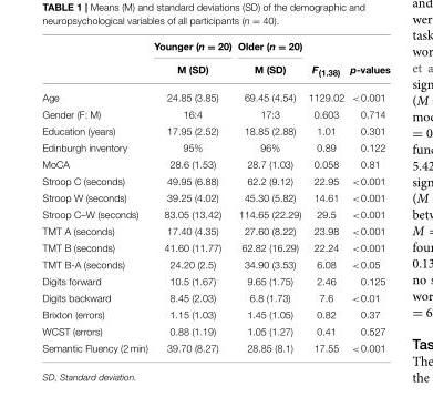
<table><thead><tr><td rowspan="2"></td><td rowspan="2">Younger (n = 20) M (SD)</td><td rowspan="2">Older (n = 20) M (SD)</td><td rowspan="2">F<sub>(1.38)</sub></td><td rowspan="2">p-values</td></tr><tr></tr></thead><tbody><tr><td>Age</td><td>24.85 (3.85)</td><td>69.45 (4.54)</td><td>1129.02</td><td>&lt;0.001</td></tr><tr><td>Gender (F: M)</td><td>16:4</td><td>17:3</td><td>0.603</td><td>0.714</td></tr><tr><td>Education (years)</td><td>17.95 (2.52)</td><td>18.85 (2.88)</td><td>1.01</td><td>0.301</td></tr><tr><td>Edinburgh inventory</td><td>95%</td><td>96%</td><td>0.89</td><td>0.122</td></tr><tr><td>MoCA</td><td>28.6 (1.53)</td><td>28.7 (1.03)</td><td>0.058</td><td>0.81</td></tr><tr><td>Stroop C (seconds)</td><td>49.95 (6.88)</td><td>62.2 (9.12)</td><td>22.95</td><td>&lt;0.001</td></tr><tr><td>Stroop W (seconds)</td><td>39.25 (4.02)</td><td>45.30 (5.82)</td><td>14.61</td><td>&lt;0.001</td></tr><tr><td>Stroop C–W (seconds)</td><td>83.05 (13.42)</td><td>114.65 (22.29)</td><td>29.5</td><td>&lt;0.001</td></tr><tr><td>TMT A (seconds)</td><td>17.40 (4.35)</td><td>27.60 (8.22)</td><td>23.98</td><td>&lt;0.001</td></tr><tr><td>TMT B (seconds)</td><td>41.60 (11.77)</td><td>62.82 (16.29)</td><td>22.24</td><td>&lt;0.001</td></tr><tr><td>TMT B-A (seconds)</td><td>24.20 (2.5)</td><td>34.90 (3.53)</td><td>6.08</td><td>&lt;0.05</td></tr><tr><td>Digits forward</td><td>10.5 (1.67)</td><td>9.65 (1.75)</td><td>2.46</td><td>0.125</td></tr><tr><td>Digits backward</td><td>8.45 (2.03)</td><td>6.8 (1.73)</td><td>7.6</td><td>&lt;0.01</td></tr><tr><td>Brixton (errors)</td><td>1.15 (1.03)</td><td>1.45 (1.05)</td><td>0.82</td><td>0.37</td></tr><tr><td>WCST (errors)</td><td>0.88 (1.19)</td><td>1.05 (1.27)</td><td>0.41</td><td>0.527</td></tr><tr><td>Semantic Fluency (2 min)</td><td>39.70 (8.27)</td><td>28.85 (8.1)</td><td>17.55</td><td>&lt;0.001</td></tr></tbody></table>